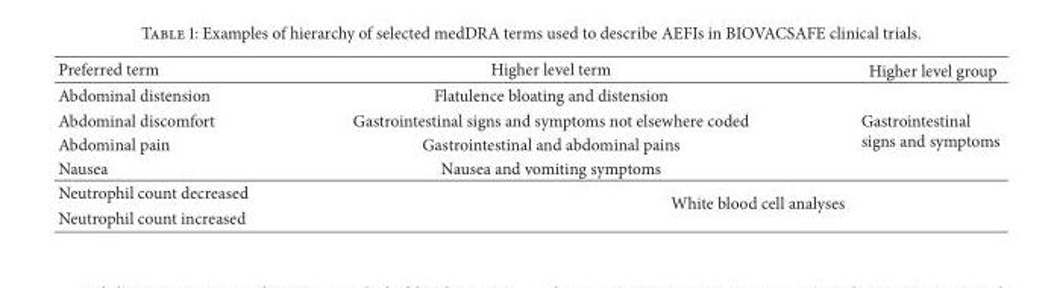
<table><thead><tr><td>Preferred term</td><td>Higher level term</td><td>Higher level group</td></tr></thead><tbody><tr><td>Abdominal distension</td><td>Flatulence bloating and distension</td><td rowspan="4">Gastrointestinal signs and symptoms</td></tr><tr><td>Abdominal discomfort</td><td>Gastrointestinal signs and symptoms not elsewhere coded</td></tr><tr><td>Abdominal pain</td><td>Gastrointestinal and abdominal pains</td></tr><tr><td>Nausea</td><td>Nausea and vomiting symptoms</td></tr><tr><td>Neutrophil count decreased</td><td rowspan="2" colspan="2">White blood cell analyses</td></tr><tr><td>Neutrophil count increased</td></tr></tbody></table>